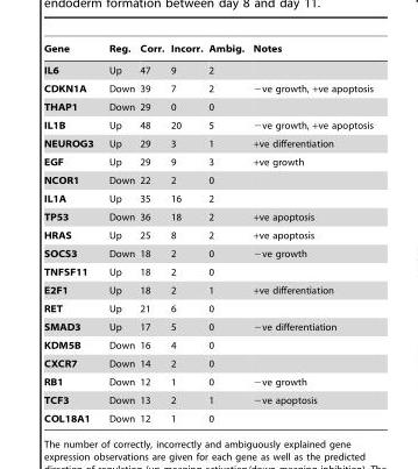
<table><thead><tr><td>Gene</td><td>Reg.</td><td>Corr.</td><td>Incorr.</td><td>Ambig.</td><td>Notes</td></tr></thead><tbody><tr><td>IL6</td><td>Up</td><td>47</td><td>9</td><td>2</td><td></td></tr><tr><td>CDKN1A</td><td>Down</td><td>39</td><td>7</td><td>2</td><td>−ve growth, +ve apoptosis</td></tr><tr><td>THAP1</td><td>Down</td><td>29</td><td>0</td><td>0</td><td></td></tr><tr><td>IL1B</td><td>Up</td><td>48</td><td>20</td><td>5</td><td>−ve growth, +ve apoptosis</td></tr><tr><td>NEUROG3</td><td>Up</td><td>29</td><td>3</td><td>1</td><td>+ve differentiation</td></tr><tr><td>EGF</td><td>Up</td><td>29</td><td>9</td><td>3</td><td>+ve growth</td></tr><tr><td>NCOR1</td><td>Down</td><td>22</td><td>2</td><td>0</td><td></td></tr><tr><td>IL1A</td><td>Up</td><td>35</td><td>16</td><td>2</td><td></td></tr><tr><td>TP53</td><td>Down</td><td>36</td><td>18</td><td>2</td><td>+ve apoptosis</td></tr><tr><td>HRAS</td><td>Up</td><td>25</td><td>8</td><td>2</td><td>+ve apoptosis</td></tr><tr><td>SOCS3</td><td>Down</td><td>18</td><td>2</td><td>0</td><td>−ve growth</td></tr><tr><td>TNFSF11</td><td>Up</td><td>18</td><td>2</td><td>0</td><td></td></tr><tr><td>E2F1</td><td>Up</td><td>18</td><td>2</td><td>1</td><td>+ve differentiation</td></tr><tr><td>RET</td><td>Up</td><td>21</td><td>6</td><td>0</td><td></td></tr><tr><td>SMAD3</td><td>Up</td><td>17</td><td>5</td><td>0</td><td>−ve differentiation</td></tr><tr><td>KDM5B</td><td>Down</td><td>16</td><td>4</td><td>0</td><td></td></tr><tr><td>CXCR7</td><td>Down</td><td>14</td><td>2</td><td>0</td><td></td></tr><tr><td>RB1</td><td>Down</td><td>12</td><td>1</td><td>0</td><td>−ve growth</td></tr><tr><td>TCF3</td><td>Down</td><td>13</td><td>2</td><td>1</td><td>−ve apoptosis</td></tr><tr><td>COL18A1</td><td>Down</td><td>12</td><td>1</td><td>0</td><td></td></tr></tbody></table>